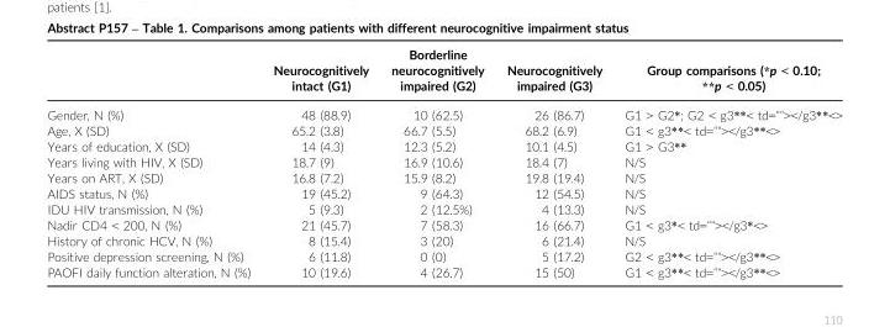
<table><thead><tr><td></td><td>Neurocognitively intact (G1)</td><td>Borderline neurocognitively impaired (G2)</td><td>Neurocognitively impaired (G3)</td><td>Group comparisons (*p &lt; 0.10; **p &lt; 0.05)</td></tr></thead><tbody><tr><td>Gender, N (%)</td><td>48 (88.9)</td><td>10 (62.5)</td><td>26 (86.7)</td><td>G1 &gt; G2*; G2 &lt; g3**&lt; td=““&gt;&lt;/g3**&lt;&gt;</td></tr><tr><td>Age, X (SD)</td><td>65.2 (3.8)</td><td>66.7 (5.5)</td><td>68.2 (6.9)</td><td>G1 &lt; g3**&lt; td=““&gt;&lt;/g3**&lt;&gt;</td></tr><tr><td>Years of education, X (SD)</td><td>14 (4.3)</td><td>12.3 (5.2)</td><td>10.1 (4.5)</td><td>G1 &gt; G3**</td></tr><tr><td>Years living with HIV, X (SD)</td><td>18.7 (9)</td><td>16.9 (10.6)</td><td>18.4 (7)</td><td>N/S</td></tr><tr><td>Years on ART, X (SD)</td><td>16.8 (7.2)</td><td>15.9 (8.2)</td><td>19.8 (19.4)</td><td>N/S</td></tr><tr><td>AIDS status, N (%)</td><td>19 (45.2)</td><td>9 (64.3)</td><td>12 (54.5)</td><td>N/S</td></tr><tr><td>IDU HIV transmission, N (%)</td><td>5 (9.3)</td><td>2 (12.5%)</td><td>4 (13.3)</td><td>N/S</td></tr><tr><td>Nadir CD4 &lt; 200, N (%)</td><td>21 (45.7)</td><td>7 (58.3)</td><td>16 (66.7)</td><td>G1 &lt; g3*&lt; td=““&gt;&lt;/g3*&lt;&gt;</td></tr><tr><td>History of chronic HCV, N (%)</td><td>8 (15.4)</td><td>3 (20)</td><td>6 (21.4)</td><td>N/S</td></tr><tr><td>Positive depression screening, N (%)</td><td>6 (11.8)</td><td>0 (0)</td><td>5 (17.2)</td><td>G2 &lt; g3**&lt; td=““&gt;&lt;/g3**&lt;&gt;</td></tr><tr><td>PAOFI daily function alteration, N (%)</td><td>10 (19.6)</td><td>4 (26.7)</td><td>15 (50)</td><td>G1 &lt; g3**&lt; td=““&gt;&lt;/g3**&lt;&gt;</td></tr></tbody></table>